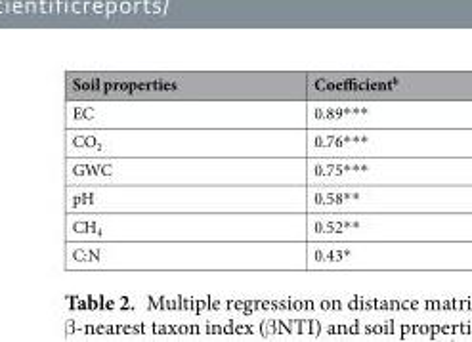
<table><thead><tr><td>Soil properties</td><td>Coefficient<sup>b</sup></td></tr></thead><tbody><tr><td>EC</td><td>0.89***</td></tr><tr><td>CO<sub>2</sub></td><td>0.76***</td></tr><tr><td>GWC</td><td>0.75***</td></tr><tr><td>pH</td><td>0.58**</td></tr><tr><td>CH<sub>4</sub></td><td>0.52**</td></tr><tr><td>C:N</td><td>0.43*</td></tr></tbody></table>